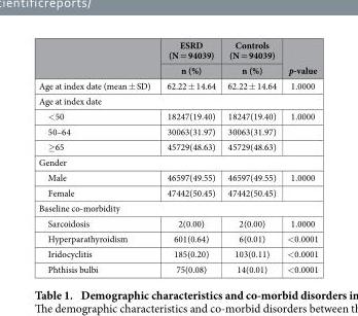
<table><thead><tr><td rowspan="2"></td><td rowspan="2">ESRD (N = 94039) n (%)</td><td rowspan="2">Controls (N = 94039) n (%)</td><td rowspan="2">p-value</td></tr><tr></tr></thead><tbody><tr><td>Age at index date (mean ± SD)</td><td>62.22 ± 14.64</td><td>62.22 ± 14.64</td><td>1.0000</td></tr><tr><td colspan="4">Age at index date</td></tr><tr><td>&lt; 50</td><td>18247(19.40)</td><td>18247(19.40)</td><td>1.0000</td></tr><tr><td>50–64</td><td>30063(31.97)</td><td>30063(31.97)</td><td></td></tr><tr><td>≥ 65</td><td>45729(48.63)</td><td>45729(48.63)</td><td></td></tr><tr><td colspan="4">Gender</td></tr><tr><td>Male</td><td>46597(49.55)</td><td>46597(49.55)</td><td>1.0000</td></tr><tr><td>Female</td><td>47442(50.45)</td><td>47442(50.45)</td><td></td></tr><tr><td colspan="4">Baseline co-morbidity</td></tr><tr><td>Sarcoidosis</td><td>2(0.00)</td><td>2(0.00)</td><td>1.0000</td></tr><tr><td>Hyperparathyroidism</td><td>601(0.64)</td><td>6(0.01)</td><td>&lt; 0.0001</td></tr><tr><td>Iridocyclitis</td><td>185(0.20)</td><td>103(0.11)</td><td>&lt; 0.0001</td></tr><tr><td>Phthisis bulbi</td><td>75(0.08)</td><td>14(0.01)</td><td>&lt; 0.0001</td></tr></tbody></table>